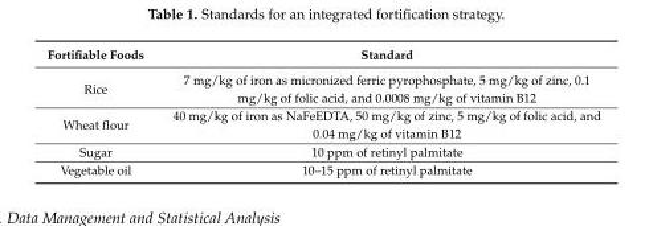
<table><thead><tr><td>Fortifiable Foods</td><td>Standard</td></tr></thead><tbody><tr><td>Rice</td><td>7 mg/kg of iron as micronized ferric pyrophosphate, 5 mg/kg of zinc, 0.1 mg/kg of folic acid, and 0.0008 mg/kg of vitamin B12</td></tr><tr><td>Wheat flour</td><td>40 mg/kg of iron as NaFeEDTA, 50 mg/kg of zinc, 5 mg/kg of folic acid, and 0.04 mg/kg of vitamin B12</td></tr><tr><td>Sugar</td><td>10 ppm of retinyl palmitate</td></tr><tr><td>Vegetable oil</td><td>10–15 ppm of retinyl palmitate</td></tr></tbody></table>